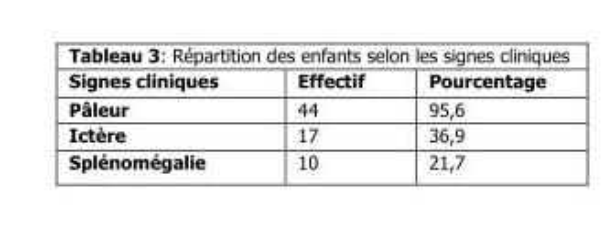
<table><thead><tr><td>Signes cliniques</td><td>Effectif</td><td>Pourcentage</td></tr></thead><tbody><tr><td>Pâleur</td><td>44</td><td>95,6</td></tr><tr><td>Ictère</td><td>17</td><td>36,9</td></tr><tr><td>Splénomégalie</td><td>10</td><td>21,7</td></tr></tbody></table>